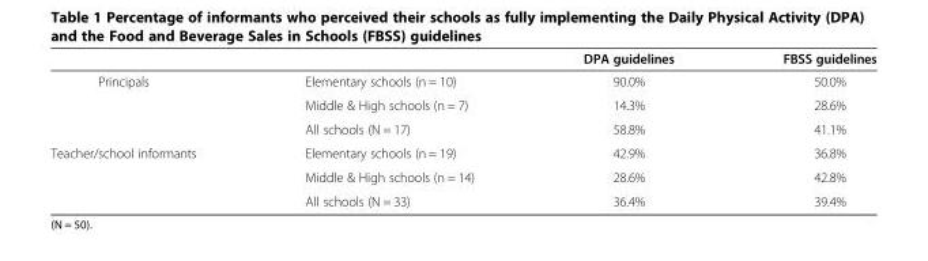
<table><thead><tr><td></td><td></td><td>DPA guidelines</td><td>FBSS guidelines</td></tr></thead><tbody><tr><td rowspan="3">Principals</td><td>Elementary schools (n = 10)</td><td>90.0%</td><td>50.0%</td></tr><tr><td>Middle &amp; High schools (n = 7)</td><td>14.3%</td><td>28.6%</td></tr><tr><td>All schools (N = 17)</td><td>58.8%</td><td>41.1%</td></tr><tr><td rowspan="3">Teacher/school informants</td><td>Elementary schools (n = 19)</td><td>42.9%</td><td>36.8%</td></tr><tr><td>Middle &amp; High schools (n = 14)</td><td>28.6%</td><td>42.8%</td></tr><tr><td>All schools (N = 33)</td><td>36.4%</td><td>39.4%</td></tr></tbody></table>